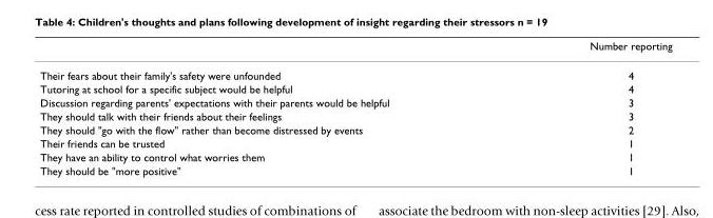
<table><thead><tr><td></td><td>Number reporting</td></tr></thead><tbody><tr><td>Their fears about their family&#x27;s safety were unfounded</td><td>4</td></tr><tr><td>Tutoring at school for a specific subject would be helpful</td><td>4</td></tr><tr><td>Discussion regarding parents&#x27; expectations with their parents would be helpful</td><td>3</td></tr><tr><td>They should talk with their friends about their feelings</td><td>3</td></tr><tr><td>They should &quot;go with the flow&quot; rather than become distressed by events</td><td>2</td></tr><tr><td>Their friends can be trusted</td><td>1</td></tr><tr><td>They have an ability to control what worries them</td><td>1</td></tr><tr><td>They should be &quot;more positive&quot;</td><td>1</td></tr></tbody></table>